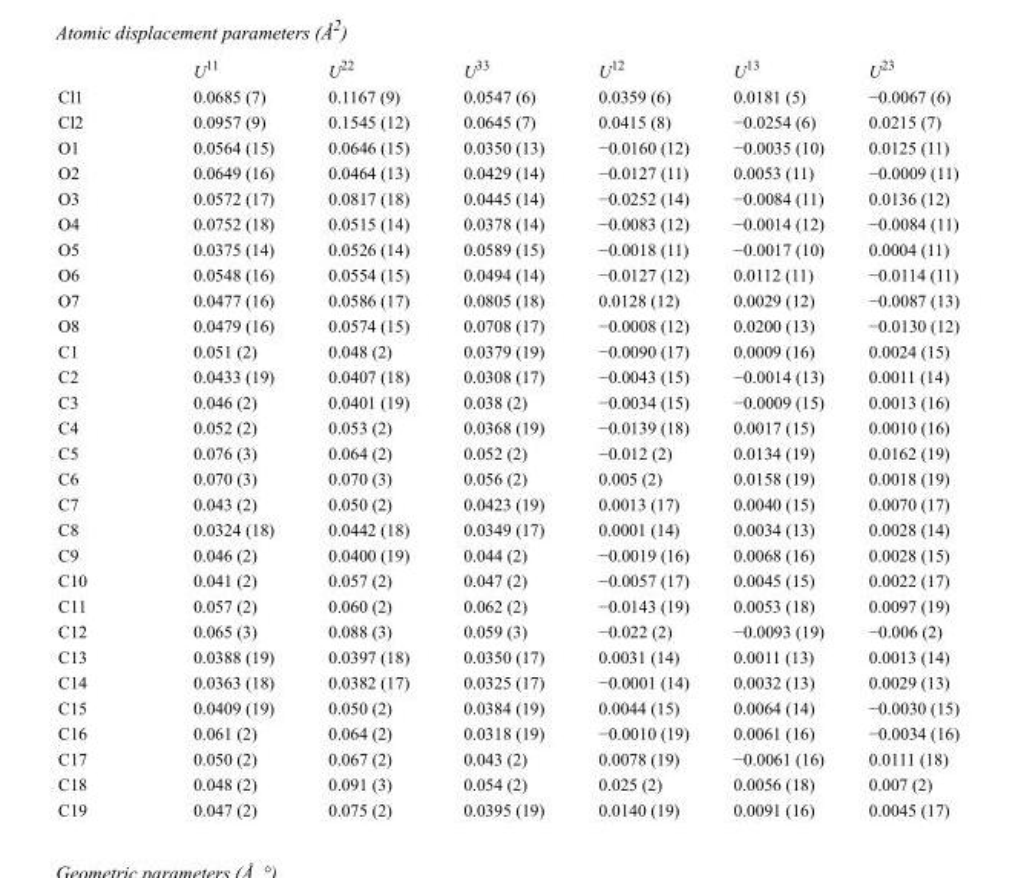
<table><thead><tr><td></td><td>U<sup>11</sup></td><td>U<sup>22</sup></td><td>U<sup>33</sup></td><td>U<sup>12</sup></td><td>U<sup>13</sup></td><td>U<sup>23</sup></td></tr></thead><tbody><tr><td>Cl1</td><td>0.0685 (7)</td><td>0.1167 (9)</td><td>0.0547 (6)</td><td>0.0359 (6)</td><td>0.0181 (5)</td><td>−0.0067 (6)</td></tr><tr><td>Cl2</td><td>0.0957 (9)</td><td>0.1545 (12)</td><td>0.0645 (7)</td><td>0.0415 (8)</td><td>−0.0254 (6)</td><td>0.0215 (7)</td></tr><tr><td>O1</td><td>0.0564 (15)</td><td>0.0646 (15)</td><td>0.0350 (13)</td><td>−0.0160 (12)</td><td>−0.0035 (10)</td><td>0.0125 (11)</td></tr><tr><td>O2</td><td>0.0649 (16)</td><td>0.0464 (13)</td><td>0.0429 (14)</td><td>−0.0127 (11)</td><td>0.0053 (11)</td><td>−0.0009 (11)</td></tr><tr><td>O3</td><td>0.0572 (17)</td><td>0.0817 (18)</td><td>0.0445 (14)</td><td>−0.0252 (14)</td><td>−0.0084 (11)</td><td>0.0136 (12)</td></tr><tr><td>O4</td><td>0.0752 (18)</td><td>0.0515 (14)</td><td>0.0378 (14)</td><td>−0.0083 (12)</td><td>−0.0014 (12)</td><td>−0.0084 (11)</td></tr><tr><td>O5</td><td>0.0375 (14)</td><td>0.0526 (14)</td><td>0.0589 (15)</td><td>−0.0018 (11)</td><td>−0.0017 (10)</td><td>0.0004 (11)</td></tr><tr><td>O6</td><td>0.0548 (16)</td><td>0.0554 (15)</td><td>0.0494 (14)</td><td>−0.0127 (12)</td><td>0.0112 (11)</td><td>−0.0114 (11)</td></tr><tr><td>O7</td><td>0.0477 (16)</td><td>0.0586 (17)</td><td>0.0805 (18)</td><td>0.0128 (12)</td><td>0.0029 (12)</td><td>−0.0087 (13)</td></tr><tr><td>O8</td><td>0.0479 (16)</td><td>0.0574 (15)</td><td>0.0708 (17)</td><td>−0.0008 (12)</td><td>0.0200 (13)</td><td>−0.0130 (12)</td></tr><tr><td>C1</td><td>0.051 (2)</td><td>0.048 (2)</td><td>0.0379 (19)</td><td>−0.0090 (17)</td><td>0.0009 (16)</td><td>0.0024 (15)</td></tr><tr><td>C2</td><td>0.0433 (19)</td><td>0.0407 (18)</td><td>0.0308 (17)</td><td>−0.0043 (15)</td><td>−0.0014 (13)</td><td>0.0011 (14)</td></tr><tr><td>C3</td><td>0.046 (2)</td><td>0.0401 (19)</td><td>0.038 (2)</td><td>−0.0034 (15)</td><td>−0.0009 (15)</td><td>0.0013 (16)</td></tr><tr><td>C4</td><td>0.052 (2)</td><td>0.053 (2)</td><td>0.0368 (19)</td><td>−0.0139 (18)</td><td>0.0017 (15)</td><td>0.0010 (16)</td></tr><tr><td>C5</td><td>0.076 (3)</td><td>0.064 (2)</td><td>0.052 (2)</td><td>−0.012 (2)</td><td>0.0134 (19)</td><td>0.0162 (19)</td></tr><tr><td>C6</td><td>0.070 (3)</td><td>0.070 (3)</td><td>0.056 (2)</td><td>0.005 (2)</td><td>0.0158 (19)</td><td>0.0018 (19)</td></tr><tr><td>C7</td><td>0.043 (2)</td><td>0.050 (2)</td><td>0.0423 (19)</td><td>0.0013 (17)</td><td>0.0040 (15)</td><td>0.0070 (17)</td></tr><tr><td>C8</td><td>0.0324 (18)</td><td>0.0442 (18)</td><td>0.0349 (17)</td><td>0.0001 (14)</td><td>0.0034 (13)</td><td>0.0028 (14)</td></tr><tr><td>C9</td><td>0.046 (2)</td><td>0.0400 (19)</td><td>0.044 (2)</td><td>−0.0019 (16)</td><td>0.0068 (16)</td><td>0.0028 (15)</td></tr><tr><td>C10</td><td>0.041 (2)</td><td>0.057 (2)</td><td>0.047 (2)</td><td>−0.0057 (17)</td><td>0.0045 (15)</td><td>0.0022 (17)</td></tr><tr><td>C11</td><td>0.057 (2)</td><td>0.060 (2)</td><td>0.062 (2)</td><td>−0.0143 (19)</td><td>0.0053 (18)</td><td>0.0097 (19)</td></tr><tr><td>C12</td><td>0.065 (3)</td><td>0.088 (3)</td><td>0.059 (3)</td><td>−0.022 (2)</td><td>−0.0093 (19)</td><td>−0.006 (2)</td></tr><tr><td>C13</td><td>0.0388 (19)</td><td>0.0397 (18)</td><td>0.0350 (17)</td><td>0.0031 (14)</td><td>0.0011 (13)</td><td>0.0013 (14)</td></tr><tr><td>C14</td><td>0.0363 (18)</td><td>0.0382 (17)</td><td>0.0325 (17)</td><td>−0.0001 (14)</td><td>0.0032 (13)</td><td>0.0029 (13)</td></tr><tr><td>C15</td><td>0.0409 (19)</td><td>0.050 (2)</td><td>0.0384 (19)</td><td>0.0044 (15)</td><td>0.0064 (14)</td><td>−0.0030 (15)</td></tr><tr><td>C16</td><td>0.061 (2)</td><td>0.064 (2)</td><td>0.0318 (19)</td><td>−0.0010 (19)</td><td>0.0061 (16)</td><td>−0.0034 (16)</td></tr><tr><td>C17</td><td>0.050 (2)</td><td>0.067 (2)</td><td>0.043 (2)</td><td>0.0078 (19)</td><td>−0.0061 (16)</td><td>0.0111 (18)</td></tr><tr><td>C18</td><td>0.048 (2)</td><td>0.091 (3)</td><td>0.054 (2)</td><td>0.025 (2)</td><td>0.0056 (18)</td><td>0.007 (2)</td></tr><tr><td>C19</td><td>0.047 (2)</td><td>0.075 (2)</td><td>0.0395 (19)</td><td>0.0140 (19)</td><td>0.0091 (16)</td><td>0.0045 (17)</td></tr></tbody></table>